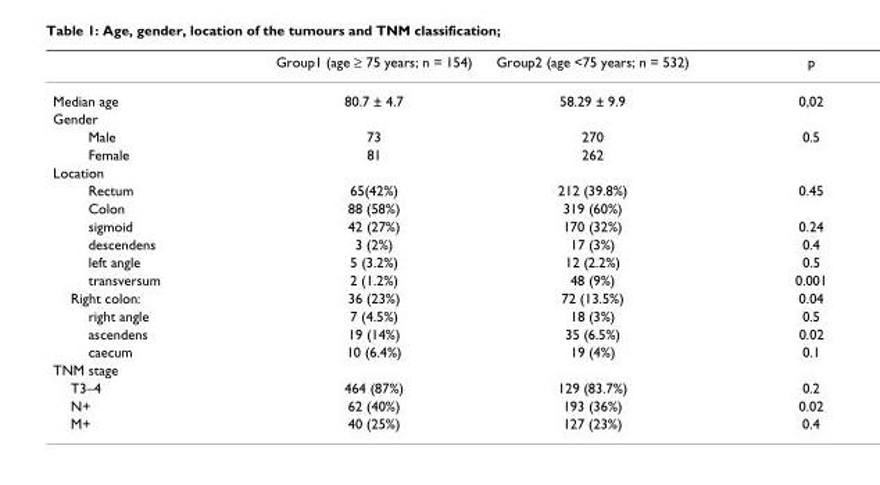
<table><thead><tr><td></td><td>Group1 (age ≥ 75 years; n = 154)</td><td>Group2 (age &lt;75 years; n = 532)</td><td>p</td></tr></thead><tbody><tr><td>Median age</td><td>80.7 ± 4.7</td><td>58.29 ± 9.9</td><td>0,02</td></tr><tr><td colspan="4">Gender</td></tr><tr><td>Male</td><td>73</td><td>270</td><td>0.5</td></tr><tr><td>Female</td><td>81</td><td>262</td><td></td></tr><tr><td colspan="4">Location</td></tr><tr><td>Rectum</td><td>65(42%)</td><td>212 (39.8%)</td><td>0.45</td></tr><tr><td>Colon</td><td>88 (58%)</td><td>319 (60%)</td><td></td></tr><tr><td>sigmoid</td><td>42 (27%)</td><td>170 (32%)</td><td>0.24</td></tr><tr><td>descendens</td><td>3 (2%)</td><td>17 (3%)</td><td>0.4</td></tr><tr><td>left angle</td><td>5 (3.2%)</td><td>12 (2.2%)</td><td>0.5</td></tr><tr><td>transversum</td><td>2 (1.2%)</td><td>48 (9%)</td><td>0.001</td></tr><tr><td>Right colon:</td><td>36 (23%)</td><td>72 (13.5%)</td><td>0.04</td></tr><tr><td>right angle</td><td>7 (4.5%)</td><td>18 (3%)</td><td>0.5</td></tr><tr><td>ascendens</td><td>19 (14%)</td><td>35 (6.5%)</td><td>0.02</td></tr><tr><td>caecum</td><td>10 (6.4%)</td><td>19 (4%)</td><td>0.1</td></tr><tr><td colspan="4">TNM stage</td></tr><tr><td>T3–4</td><td>464 (87%)</td><td>129 (83.7%)</td><td>0.2</td></tr><tr><td>N+</td><td>62 (40%)</td><td>193 (36%)</td><td>0.02</td></tr><tr><td>M+</td><td>40 (25%)</td><td>127 (23%)</td><td>0.4</td></tr></tbody></table>